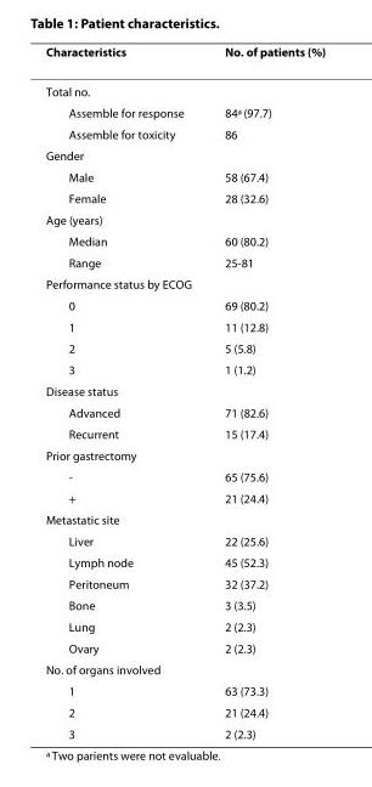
<table><thead><tr><td>Characteristics</td><td>No. of patients (%)</td></tr></thead><tbody><tr><td colspan="2">Total no.</td></tr><tr><td>Assemble for response</td><td>84<sup>a</sup> (97.7)</td></tr><tr><td>Assemble for toxicity</td><td>86</td></tr><tr><td colspan="2">Gender</td></tr><tr><td>Male</td><td>58 (67.4)</td></tr><tr><td>Female</td><td>28 (32.6)</td></tr><tr><td colspan="2">Age (years)</td></tr><tr><td>Median</td><td>60 (80.2)</td></tr><tr><td>Range</td><td>25-81</td></tr><tr><td colspan="2">Performance status by ECOG</td></tr><tr><td>0</td><td>69 (80.2)</td></tr><tr><td>1</td><td>11 (12.8)</td></tr><tr><td>2</td><td>5 (5.8)</td></tr><tr><td>3</td><td>1 (1.2)</td></tr><tr><td colspan="2">Disease status</td></tr><tr><td>Advanced</td><td>71 (82.6)</td></tr><tr><td>Recurrent</td><td>15 (17.4)</td></tr><tr><td colspan="2">Prior gastrectomy</td></tr><tr><td>-</td><td>65 (75.6)</td></tr><tr><td>+</td><td>21 (24.4)</td></tr><tr><td colspan="2">Metastatic site</td></tr><tr><td>Liver</td><td>22 (25.6)</td></tr><tr><td>Lymph node</td><td>45 (52.3)</td></tr><tr><td>Peritoneum</td><td>32 (37.2)</td></tr><tr><td>Bone</td><td>3 (3.5)</td></tr><tr><td>Lung</td><td>2 (2.3)</td></tr><tr><td>Ovary</td><td>2 (2.3)</td></tr><tr><td colspan="2">No. of organs involved</td></tr><tr><td>1</td><td>63 (73.3)</td></tr><tr><td>2</td><td>21 (24.4)</td></tr><tr><td>3</td><td>2 (2.3)</td></tr></tbody></table>